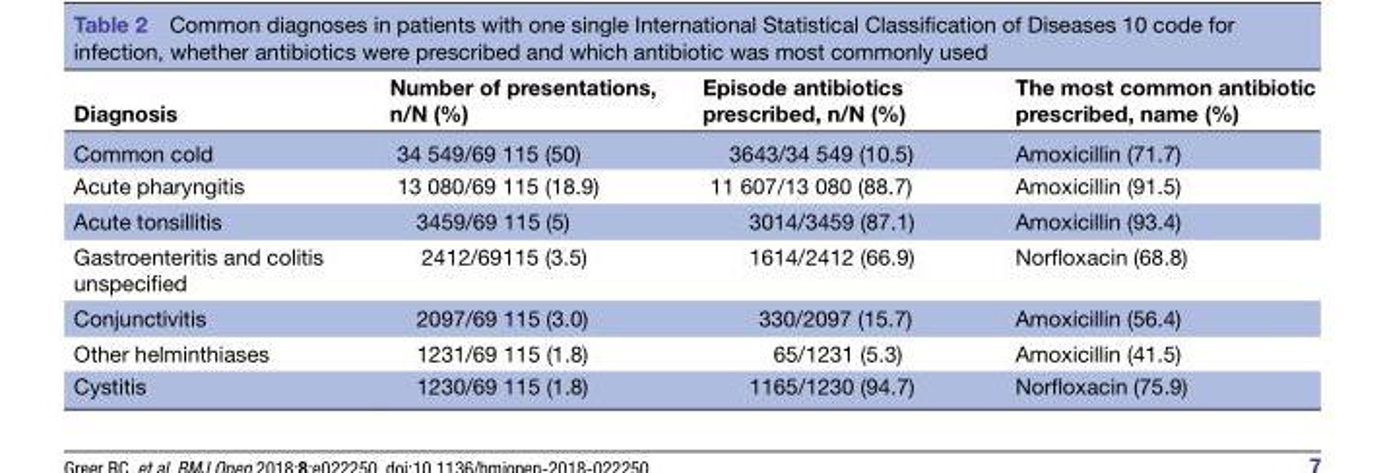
<table><thead><tr><td>Diagnosis</td><td>Number of presentations, n/N (%)</td><td>Episode antibiotics prescribed, n/N (%)</td><td>The most common antibiotic prescribed, name (%)</td></tr></thead><tbody><tr><td>Common cold</td><td>34 549/69 115 (50)</td><td>3643/34 549 (10.5)</td><td>Amoxicillin (71.7)</td></tr><tr><td>Acute pharyngitis</td><td>13 080/69 115 (18.9)</td><td>11 607/13 080 (88.7)</td><td>Amoxicillin (91.5)</td></tr><tr><td>Acute tonsillitis</td><td>3459/69 115 (5)</td><td>3014/3459 (87.1)</td><td>Amoxicillin (93.4)</td></tr><tr><td>Gastroenteritis and colitis unspecified</td><td>2412/69115 (3.5)</td><td>1614/2412 (66.9)</td><td>Norfloxacin (68.8)</td></tr><tr><td>Conjunctivitis</td><td>2097/69 115 (3.0)</td><td>330/2097 (15.7)</td><td>Amoxicillin (56.4)</td></tr><tr><td>Other helminthiases</td><td>1231/69 115 (1.8)</td><td>65/1231 (5.3)</td><td>Amoxicillin (41.5)</td></tr><tr><td>Cystitis</td><td>1230/69 115 (1.8)</td><td>1165/1230 (94.7)</td><td>Norfloxacin (75.9)</td></tr></tbody></table>